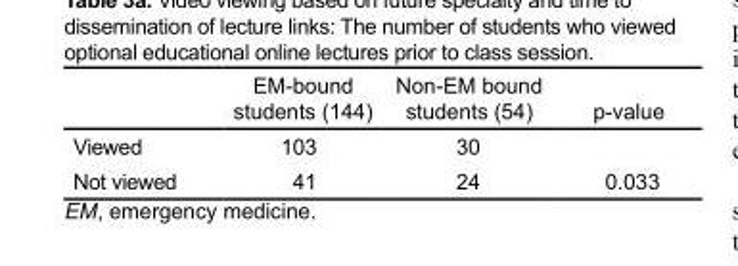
<table><thead><tr><td></td><td>EM-bound students (144)</td><td>Non-EM bound students (54)</td><td>p-value</td></tr></thead><tbody><tr><td>Viewed</td><td>103</td><td>30</td><td></td></tr><tr><td>Not viewed</td><td>41</td><td>24</td><td>0.033</td></tr></tbody></table>